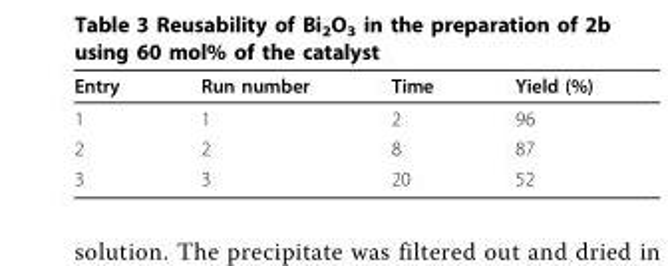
<table><thead><tr><td>Entry</td><td>Run number</td><td>Time</td><td>Yield (%)</td></tr></thead><tbody><tr><td>1</td><td>1</td><td>2</td><td>96</td></tr><tr><td>2</td><td>2</td><td>8</td><td>87</td></tr><tr><td>3</td><td>3</td><td>20</td><td>52</td></tr></tbody></table>